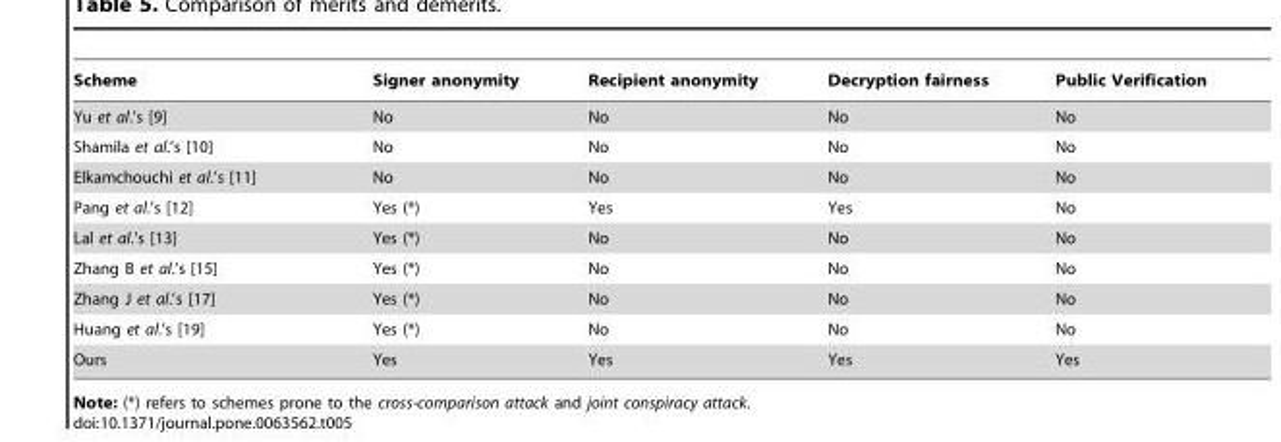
<table><thead><tr><td>Scheme</td><td>Signer anonymity</td><td>Recipient anonymity</td><td>Decryption fairness</td><td>Public Verification</td></tr></thead><tbody><tr><td>Yu et al.’s [9]</td><td>No</td><td>No</td><td>No</td><td>No</td></tr><tr><td>Shamila et al.’s [10]</td><td>No</td><td>No</td><td>No</td><td>No</td></tr><tr><td>Elkamchouchi et al.’s [11]</td><td>No</td><td>No</td><td>No</td><td>No</td></tr><tr><td>Pang et al.’s [12]</td><td>Yes (*)</td><td>Yes</td><td>Yes</td><td>No</td></tr><tr><td>Lal et al.’s [13]</td><td>Yes (*)</td><td>No</td><td>No</td><td>No</td></tr><tr><td>Zhang B et al.’s [15]</td><td>Yes (*)</td><td>No</td><td>No</td><td>No</td></tr><tr><td>Zhang J et al.’s [17]</td><td>Yes (*)</td><td>No</td><td>No</td><td>No</td></tr><tr><td>Huang et al.’s [19]</td><td>Yes (*)</td><td>No</td><td>No</td><td>No</td></tr><tr><td>Ours</td><td>Yes</td><td>Yes</td><td>Yes</td><td>Yes</td></tr></tbody></table>